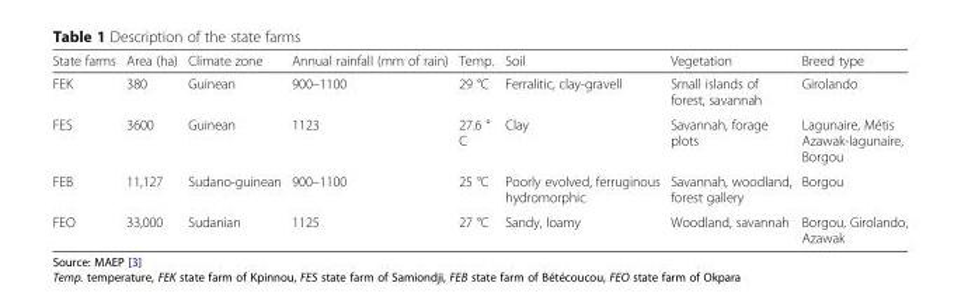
<table><thead><tr><td>State farms</td><td>Area (ha)</td><td>Climate zone</td><td>Annual rainfall (mm of rain)</td><td>Temp.</td><td>Soil</td><td>Vegetation</td><td>Breed type</td></tr></thead><tbody><tr><td>FEK</td><td>380</td><td>Guinean</td><td>900–1100</td><td>29 °C</td><td>Ferralitic, clay-gravell</td><td>Small islands of forest, savannah</td><td>Girolando</td></tr><tr><td>FES</td><td>3600</td><td>Guinean</td><td>1123</td><td>27.6 ° C</td><td>Clay</td><td>Savannah, forage plots</td><td>Lagunaire, Métis Azawak-lagunaire, Borgou</td></tr><tr><td>FEB</td><td>11,127</td><td>Sudano-guinean</td><td>900–1100</td><td>25 °C</td><td>Poorly evolved, ferruginous hydromorphic</td><td>Savannah, woodland, forest gallery</td><td>Borgou</td></tr><tr><td>FEO</td><td>33,000</td><td>Sudanian</td><td>1125</td><td>27 °C</td><td>Sandy, loamy</td><td>Woodland, savannah</td><td>Borgou, Girolando, Azawak</td></tr></tbody></table>